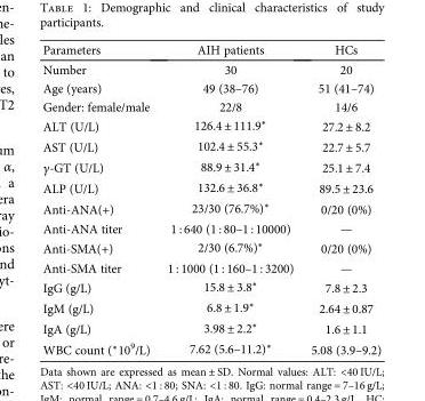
<table><thead><tr><td>Parameters</td><td>AIH patients</td><td>HCs</td></tr></thead><tbody><tr><td>Number</td><td>30</td><td>20</td></tr><tr><td>Age (years)</td><td>49 (38–76)</td><td>51 (41–74)</td></tr><tr><td>Gender: female/male</td><td>22/8</td><td>14/6</td></tr><tr><td>ALT (U/L)</td><td>126.4 ± 111.9∗</td><td>27.2 ± 8.2</td></tr><tr><td>AST (U/L)</td><td>102.4 ± 55.3∗</td><td>22.7 ± 5.7</td></tr><tr><td>γ-GT (U/L)</td><td>88.9 ± 31.4∗</td><td>25.1 ± 7.4</td></tr><tr><td>ALP (U/L)</td><td>132.6 ± 36.8∗</td><td>89.5 ± 23.6</td></tr><tr><td>Anti-ANA(+)</td><td>23/30 (76.7%)∗</td><td>0/20 (0%)</td></tr><tr><td>Anti-ANA titer</td><td>1 : 640 (1 : 80–1 : 10000)</td><td>—</td></tr><tr><td>Anti-SMA(+)</td><td>2/30 (6.7%)∗</td><td>0/20 (0%)</td></tr><tr><td>Anti-SMA titer</td><td>1 : 1000 (1 : 160–1 : 3200)</td><td>—</td></tr><tr><td>IgG (g/L)</td><td>15.8 ± 3.8∗</td><td>7.8 ± 2.3</td></tr><tr><td>IgM (g/L)</td><td>6.8 ± 1.9∗</td><td>2.64 ± 0.87</td></tr><tr><td>IgA (g/L)</td><td>3.98 ± 2.2∗</td><td>1.6 ± 1.1</td></tr><tr><td>WBC count (∗10<sup>9</sup>/L)</td><td>7.62 (5.6–11.2)∗</td><td>5.08 (3.9–9.2)</td></tr></tbody></table>